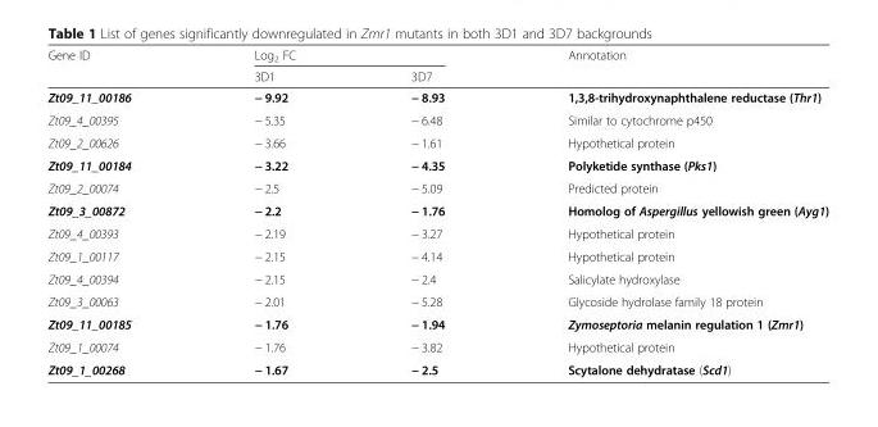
<table><thead><tr><td rowspan="2">Gene ID</td><td colspan="2">Log<sub>2</sub> FC</td><td rowspan="2">Annotation</td></tr><tr><td>3D1</td><td>3D7</td></tr></thead><tbody><tr><td>Zt09_11_00186</td><td>− 9.92</td><td>− 8.93</td><td>1,3,8-trihydroxynaphthalene reductase (Thr1)</td></tr><tr><td>Zt09_4_00395</td><td>− 5.35</td><td>− 6.48</td><td>Similar to cytochrome p450</td></tr><tr><td>Zt09_2_00626</td><td>− 3.66</td><td>− 1.61</td><td>Hypothetical protein</td></tr><tr><td>Zt09_11_00184</td><td>− 3.22</td><td>− 4.35</td><td>Polyketide synthase (Pks1)</td></tr><tr><td>Zt09_2_00074</td><td>− 2.5</td><td>− 5.09</td><td>Predicted protein</td></tr><tr><td>Zt09_3_00872</td><td>− 2.2</td><td>− 1.76</td><td>Homolog of Aspergillus yellowish green (Ayg1)</td></tr><tr><td>Zt09_4_00393</td><td>− 2.19</td><td>− 3.27</td><td>Hypothetical protein</td></tr><tr><td>Zt09_1_00117</td><td>− 2.15</td><td>− 4.14</td><td>Hypothetical protein</td></tr><tr><td>Zt09_4_00394</td><td>− 2.15</td><td>− 2.4</td><td>Salicylate hydroxylase</td></tr><tr><td>Zt09_3_00063</td><td>− 2.01</td><td>− 5.28</td><td>Glycoside hydrolase family 18 protein</td></tr><tr><td>Zt09_11_00185</td><td>− 1.76</td><td>− 1.94</td><td>Zymoseptoria melanin regulation 1 (Zmr1)</td></tr><tr><td>Zt09_1_00074</td><td>− 1.76</td><td>− 3.82</td><td>Hypothetical protein</td></tr><tr><td>Zt09_1_00268</td><td>− 1.67</td><td>− 2.5</td><td>Scytalone dehydratase (Scd1)</td></tr></tbody></table>